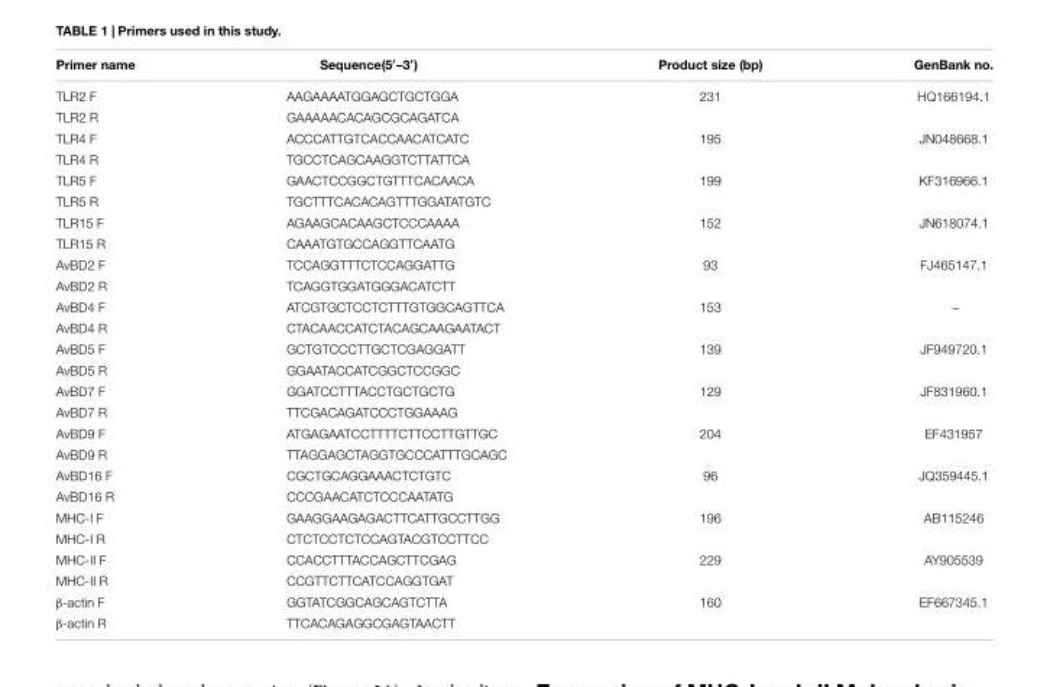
<table><thead><tr><td>Primer name</td><td>Sequence(5′–3′)</td><td>Product size (bp)</td><td>GenBank no.</td></tr></thead><tbody><tr><td>TLR2 F</td><td>AAGAAAATGGAGCTGCTGGA</td><td>231</td><td>HQ166194.1</td></tr><tr><td>TLR2 R</td><td>GAAAAACACAGCGCAGATCA</td><td></td><td></td></tr><tr><td>TLR4 F</td><td>ACCCATTGTCACCAACATCATC</td><td>195</td><td>JN048668.1</td></tr><tr><td>TLR4 R</td><td>TGCCTCAGCAAGGTCTTATTCA</td><td></td><td></td></tr><tr><td>TLR5 F</td><td>GAACTCCGGCTGTTTCACAACA</td><td>199</td><td>KF316966.1</td></tr><tr><td>TLR5 R</td><td>TGCTTTCACACAGTTTGGATATGTC</td><td></td><td></td></tr><tr><td>TLR15 F</td><td>AGAAGCACAAGCTCCCAAAA</td><td>152</td><td>JN618074.1</td></tr><tr><td>TLR15 R</td><td>CAAATGTGCCAGGTTCAATG</td><td></td><td></td></tr><tr><td>AvBD2 F</td><td>TCCAGGTTTCTCCAGGATTG</td><td>93</td><td>FJ465147.1</td></tr><tr><td>AvBD2 R</td><td>TCAGGTGGATGGGACATCTT</td><td></td><td></td></tr><tr><td>AvBD4 F</td><td>ATCGTGCTCCTCTTTGTGGCAGTTCA</td><td>153</td><td>–</td></tr><tr><td>AvBD4 R</td><td>CTACAACCATCTACAGCAAGAATACT</td><td></td><td></td></tr><tr><td>AvBD5 F</td><td>GCTGTCCCTTGCTCGAGGATT</td><td>139</td><td>JF949720.1</td></tr><tr><td>AvBD5 R</td><td>GGAATACCATCGGCTCCGGC</td><td></td><td></td></tr><tr><td>AvBD7 F</td><td>GGATCCTTTACCTGCTGCTG</td><td>129</td><td>JF831960.1</td></tr><tr><td>AvBD7 R</td><td>TTCGACAGATCCCTGGAAAG</td><td></td><td></td></tr><tr><td>AvBD9 F</td><td>ATGAGAATCCTTTTCTTCCTTGTTGC</td><td>204</td><td>EF431957</td></tr><tr><td>AvBD9 R</td><td>TTAGGAGCTAGGTGCCCATTTGCAGC</td><td></td><td></td></tr><tr><td>AvBD16 F</td><td>CGCTGCAGGAAACTCTGTC</td><td>96</td><td>JQ359445.1</td></tr><tr><td>AvBD16 R</td><td>CCCGAACATCTCCCAATATG</td><td></td><td></td></tr><tr><td>MHC-I F</td><td>GAAGGAAGAGACTTCATTGCCTTGG</td><td>196</td><td>AB115246</td></tr><tr><td>MHC-I R</td><td>CTCTCCTCTCCAGTACGTCCTTCC</td><td></td><td></td></tr><tr><td>MHC-II F</td><td>CCACCTTTACCAGCTTCGAG</td><td>229</td><td>AY905539</td></tr><tr><td>MHC-II R</td><td>CCGTTCTTCATCCAGGTGAT</td><td></td><td></td></tr><tr><td>β-actin F</td><td>GGTATCGGCAGCAGTCTTA</td><td>160</td><td>EF667345.1</td></tr><tr><td>β-actin R</td><td>TTCACAGAGGCGAGTAACTT</td><td></td><td></td></tr></tbody></table>